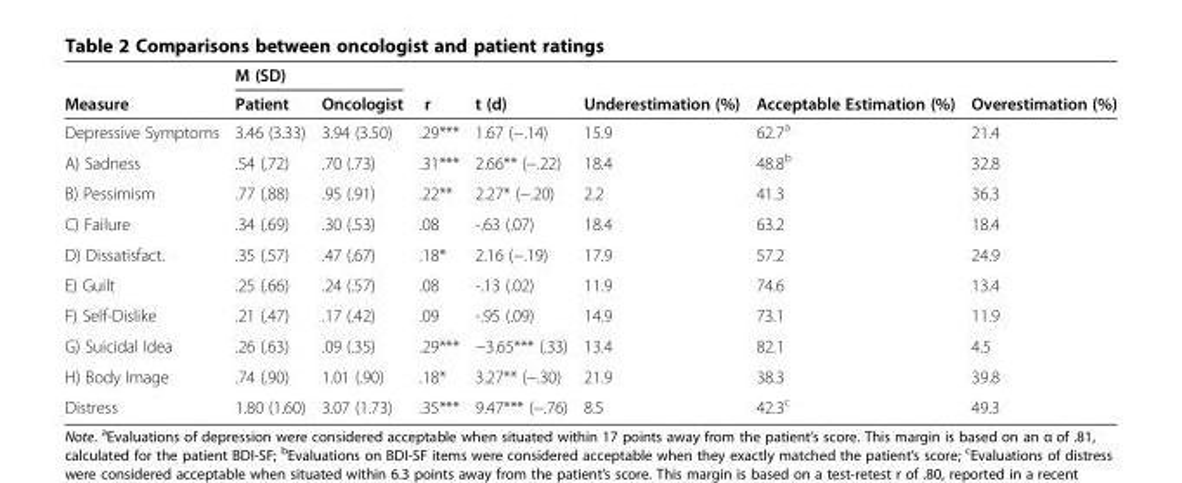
<table><thead><tr><td rowspan="2">Measure</td><td colspan="2">M (SD)</td><td rowspan="2">r</td><td rowspan="2">t (d)</td><td rowspan="2">Underestimation (%)</td><td rowspan="2">Acceptable Estimation (%)</td><td rowspan="2">Overestimation (%)</td></tr><tr><td>Patient</td><td>Oncologist</td></tr></thead><tbody><tr><td>Depressive Symptoms</td><td>3.46 (3.33)</td><td>3.94 (3.50)</td><td>.29***</td><td>1.67 (−.14)</td><td>15.9</td><td>62.7<sup>a</sup></td><td>21.4</td></tr><tr><td>A) Sadness</td><td>.54 (.72)</td><td>.70 (.73)</td><td>.31***</td><td>2.66** (−.22)</td><td>18.4</td><td>48.8<sup>b</sup></td><td>32.8</td></tr><tr><td>B) Pessimism</td><td>.77 (.88)</td><td>.95 (.91)</td><td>.22**</td><td>2.27* (−.20)</td><td>2.2</td><td>41.3</td><td>36.3</td></tr><tr><td>C) Failure</td><td>.34 (.69)</td><td>.30 (.53)</td><td>.08</td><td>-.63 (.07)</td><td>18.4</td><td>63.2</td><td>18.4</td></tr><tr><td>D) Dissatisfact.</td><td>.35 (.57)</td><td>.47 (.67)</td><td>.18*</td><td>2.16 (−.19)</td><td>17.9</td><td>57.2</td><td>24.9</td></tr><tr><td>E) Guilt</td><td>.25 (.66)</td><td>.24 (.57)</td><td>.08</td><td>-.13 (.02)</td><td>11.9</td><td>74.6</td><td>13.4</td></tr><tr><td>F) Self-Dislike</td><td>.21 (.47)</td><td>.17 (.42)</td><td>.09</td><td>-.95 (.09)</td><td>14.9</td><td>73.1</td><td>11.9</td></tr><tr><td>G) Suicidal Idea</td><td>.26 (.63)</td><td>.09 (.35)</td><td>.29***</td><td>−3.65*** (.33)</td><td>13.4</td><td>82.1</td><td>4.5</td></tr><tr><td>H) Body Image</td><td>.74 (.90)</td><td>1.01 (.90)</td><td>.18*</td><td>3.27** (−.30)</td><td>21.9</td><td>38.3</td><td>39.8</td></tr><tr><td>Distress</td><td>1.80 (1.60)</td><td>3.07 (1.73)</td><td>.35***</td><td>9.47*** (−.76)</td><td>8.5</td><td>42.3<sup>c</sup></td><td>49.3</td></tr></tbody></table>